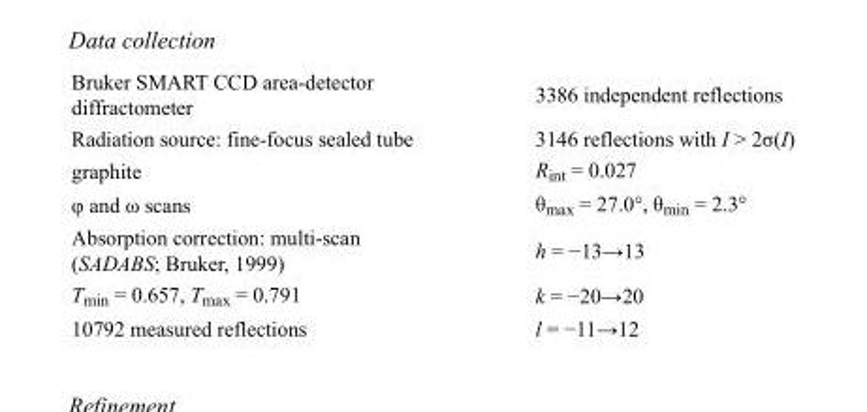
<table><tbody><tr><td>Bruker SMART CCD area-detector diffractometer</td><td>3386 independent reflections</td></tr><tr><td>Radiation source: fine-focus sealed tube</td><td>3146 reflections with I &gt; 2σ(I)</td></tr><tr><td>graphite</td><td>R<sub>int</sub> = 0.027</td></tr><tr><td>φ and ω scans</td><td>θ<sub>max</sub> = 27.0°, θ<sub>min</sub> = 2.3°</td></tr><tr><td>Absorption correction: multi-scan (SADABS; Bruker, 1999)</td><td>h = −13→13</td></tr><tr><td>T<sub>min</sub> = 0.657, T<sub>max</sub> = 0.791</td><td>k = −20→20</td></tr><tr><td>10792 measured reflections</td><td>l = −11→12</td></tr></tbody></table>